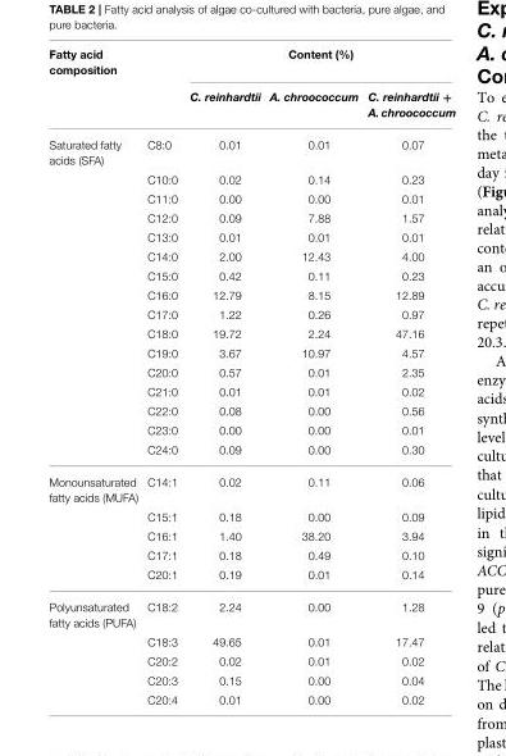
<table><thead><tr><td rowspan="2">Fatty acid composition</td><td rowspan="2"></td><td colspan="3">Content (%)</td></tr><tr><td>C. reinhardtii</td><td>A. chroococcum</td><td>C. reinhardtii + A. chroococcum</td></tr></thead><tbody><tr><td rowspan="16">Saturated fatty acids (SFA)</td><td>C8:0</td><td>0.01</td><td>0.01</td><td>0.07</td></tr><tr><td>C10:0</td><td>0.02</td><td>0.14</td><td>0.23</td></tr><tr><td>C11:0</td><td>0.00</td><td>0.00</td><td>0.01</td></tr><tr><td>C12:0</td><td>0.09</td><td>7.88</td><td>1.57</td></tr><tr><td>C13:0</td><td>0.01</td><td>0.01</td><td>0.01</td></tr><tr><td>C14:0</td><td>2.00</td><td>12.43</td><td>4.00</td></tr><tr><td>C15:0</td><td>0.42</td><td>0.11</td><td>0.23</td></tr><tr><td>C16:0</td><td>12.79</td><td>8.15</td><td>12.89</td></tr><tr><td>C17:0</td><td>1.22</td><td>0.26</td><td>0.97</td></tr><tr><td>C18:0</td><td>19.72</td><td>2.24</td><td>47.16</td></tr><tr><td>C19:0</td><td>3.67</td><td>10.97</td><td>4.57</td></tr><tr><td>C20:0</td><td>0.57</td><td>0.01</td><td>2.35</td></tr><tr><td>C21:0</td><td>0.01</td><td>0.01</td><td>0.02</td></tr><tr><td>C22:0</td><td>0.08</td><td>0.00</td><td>0.56</td></tr><tr><td>C23:0</td><td>0.00</td><td>0.00</td><td>0.01</td></tr><tr><td>C24:0</td><td>0.09</td><td>0.00</td><td>0.30</td></tr><tr><td rowspan="5">Monounsaturated fatty acids (MUFA)</td><td>C14:1</td><td>0.02</td><td>0.11</td><td>0.06</td></tr><tr><td>C15:1</td><td>0.18</td><td>0.00</td><td>0.09</td></tr><tr><td>C16:1</td><td>1.40</td><td>38.20</td><td>3.94</td></tr><tr><td>C17:1</td><td>0.18</td><td>0.49</td><td>0.10</td></tr><tr><td>C20:1</td><td>0.19</td><td>0.01</td><td>0.14</td></tr><tr><td rowspan="5">Polyunsaturated fatty acids (PUFA)</td><td>C18:2</td><td>2.24</td><td>0.00</td><td>1.28</td></tr><tr><td>C18:3</td><td>49.65</td><td>0.01</td><td>17.47</td></tr><tr><td>C20:2</td><td>0.02</td><td>0.01</td><td>0.02</td></tr><tr><td>C20:3</td><td>0.15</td><td>0.00</td><td>0.04</td></tr><tr><td>C20:4</td><td>0.01</td><td>0.00</td><td>0.02</td></tr></tbody></table>